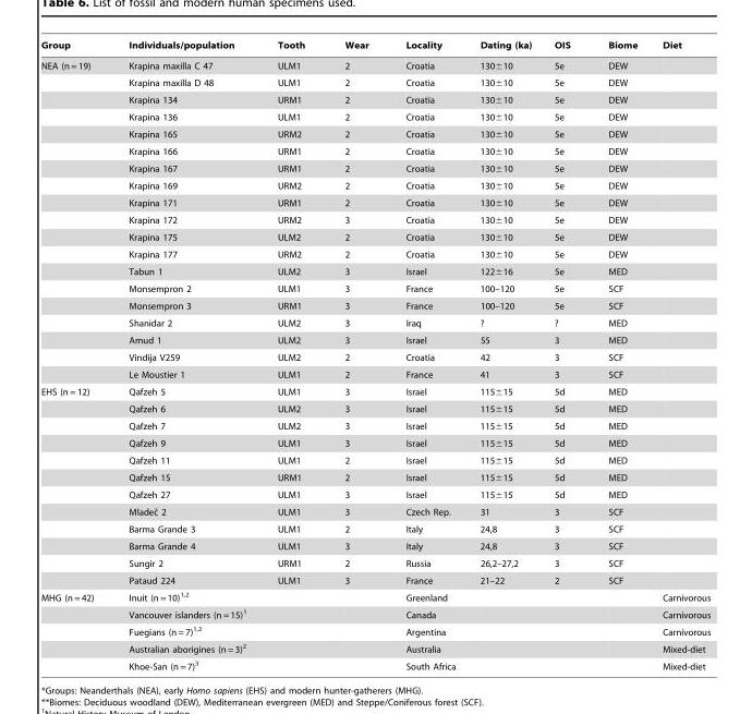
<table><thead><tr><td>Group</td><td>Individuals/population</td><td>Tooth</td><td>Wear</td><td>Locality</td><td>Dating (ka)</td><td>OIS</td><td>Biome</td><td>Diet</td></tr></thead><tbody><tr><td rowspan="19">NEA (n = 19)</td><td>Krapina maxilla C 47</td><td>ULM1</td><td>2</td><td>Croatia</td><td>130±10</td><td>5e</td><td>DEW</td><td></td></tr><tr><td>Krapina maxilla D 48</td><td>ULM1</td><td>2</td><td>Croatia</td><td>130±10</td><td>5e</td><td>DEW</td><td></td></tr><tr><td>Krapina 134</td><td>URM1</td><td>2</td><td>Croatia</td><td>130±10</td><td>5e</td><td>DEW</td><td></td></tr><tr><td>Krapina 136</td><td>ULM1</td><td>2</td><td>Croatia</td><td>130±10</td><td>5e</td><td>DEW</td><td></td></tr><tr><td>Krapina 165</td><td>URM2</td><td>2</td><td>Croatia</td><td>130±10</td><td>5e</td><td>DEW</td><td></td></tr><tr><td>Krapina 166</td><td>URM1</td><td>2</td><td>Croatia</td><td>130±10</td><td>5e</td><td>DEW</td><td></td></tr><tr><td>Krapina 167</td><td>URM1</td><td>2</td><td>Croatia</td><td>130±10</td><td>5e</td><td>DEW</td><td></td></tr><tr><td>Krapina 169</td><td>URM2</td><td>2</td><td>Croatia</td><td>130±10</td><td>5e</td><td>DEW</td><td></td></tr><tr><td>Krapina 171</td><td>URM1</td><td>2</td><td>Croatia</td><td>130±10</td><td>5e</td><td>DEW</td><td></td></tr><tr><td>Krapina 172</td><td>URM2</td><td>3</td><td>Croatia</td><td>130±10</td><td>5e</td><td>DEW</td><td></td></tr><tr><td>Krapina 175</td><td>ULM2</td><td>2</td><td>Croatia</td><td>130±10</td><td>5e</td><td>DEW</td><td></td></tr><tr><td>Krapina 177</td><td>URM2</td><td>2</td><td>Croatia</td><td>130±10</td><td>5e</td><td>DEW</td><td></td></tr><tr><td>Tabun 1</td><td>ULM2</td><td>3</td><td>Israel</td><td>122±16</td><td>5e</td><td>MED</td><td></td></tr><tr><td>Monsempron 2</td><td>ULM1</td><td>3</td><td>France</td><td>100–120</td><td>5e</td><td>SCF</td><td></td></tr><tr><td>Monsempron 3</td><td>URM1</td><td>3</td><td>France</td><td>100–120</td><td>5e</td><td>SCF</td><td></td></tr><tr><td>Shanidar 2</td><td>ULM2</td><td>3</td><td>Iraq</td><td>?</td><td>?</td><td>MED</td><td></td></tr><tr><td>Amud 1</td><td>ULM2</td><td>3</td><td>Israel</td><td>55</td><td>3</td><td>MED</td><td></td></tr><tr><td>Vindija V259</td><td>ULM2</td><td>2</td><td>Croatia</td><td>42</td><td>3</td><td>SCF</td><td></td></tr><tr><td>Le Moustier 1</td><td>ULM1</td><td>2</td><td>France</td><td>41</td><td>3</td><td>SCF</td><td></td></tr><tr><td rowspan="12">EHS (n = 12)</td><td>Qafzeh 5</td><td>ULM1</td><td>3</td><td>Israel</td><td>115±15</td><td>5d</td><td>MED</td><td></td></tr><tr><td>Qafzeh 6</td><td>ULM2</td><td>3</td><td>Israel</td><td>115±15</td><td>5d</td><td>MED</td><td></td></tr><tr><td>Qafzeh 7</td><td>ULM2</td><td>3</td><td>Israel</td><td>115±15</td><td>5d</td><td>MED</td><td></td></tr><tr><td>Qafzeh 9</td><td>ULM1</td><td>3</td><td>Israel</td><td>115±15</td><td>5d</td><td>MED</td><td></td></tr><tr><td>Qafzeh 11</td><td>ULM1</td><td>2</td><td>Israel</td><td>115±15</td><td>5d</td><td>MED</td><td></td></tr><tr><td>Qafzeh 15</td><td>URM1</td><td>2</td><td>Israel</td><td>115±15</td><td>5d</td><td>MED</td><td></td></tr><tr><td>Qafzeh 27</td><td>ULM1</td><td>3</td><td>Israel</td><td>115±15</td><td>5d</td><td>MED</td><td></td></tr><tr><td>Mladecˇ 2</td><td>ULM1</td><td>3</td><td>Czech Rep.</td><td>31</td><td>3</td><td>SCF</td><td></td></tr><tr><td>Barma Grande 3</td><td>ULM1</td><td>2</td><td>Italy</td><td>24,8</td><td>3</td><td>SCF</td><td></td></tr><tr><td>Barma Grande 4</td><td>ULM1</td><td>3</td><td>Italy</td><td>24,8</td><td>3</td><td>SCF</td><td></td></tr><tr><td>Sungir 2</td><td>URM1</td><td>2</td><td>Russia</td><td>26,2–27,2</td><td>3</td><td>SCF</td><td></td></tr><tr><td>Pataud 224</td><td>ULM1</td><td>3</td><td>France</td><td>21–22</td><td>2</td><td>SCF</td><td></td></tr><tr><td rowspan="5">MHG (n = 42)</td><td>Inuit (n = 10)<sup>1,</sup>2</td><td></td><td></td><td>Greenland</td><td></td><td></td><td></td><td>Carnivorous</td></tr><tr><td>Vancouver islanders (n = 15)<sup>1</sup></td><td></td><td></td><td>Canada</td><td></td><td></td><td></td><td>Carnivorous</td></tr><tr><td>Fuegians (n = 7)<sup>1,</sup>2</td><td></td><td></td><td>Argentina</td><td></td><td></td><td></td><td>Carnivorous</td></tr><tr><td>Australian aborigines (n = 3)<sup>2</sup></td><td></td><td></td><td>Australia</td><td></td><td></td><td></td><td>Mixed-diet</td></tr><tr><td>Khoe-San (n = 7)<sup>3</sup></td><td></td><td></td><td>South Africa</td><td></td><td></td><td></td><td>Mixed-diet</td></tr></tbody></table>